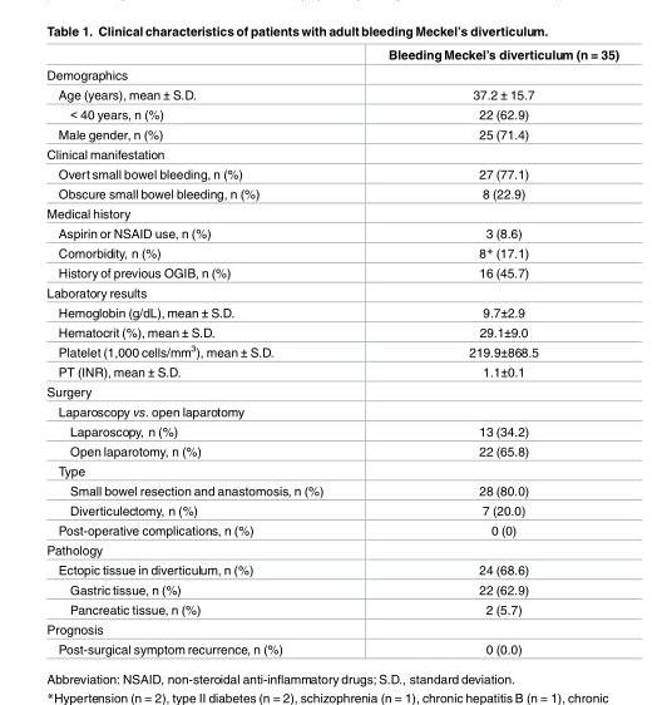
<table><thead><tr><td></td><td>Bleeding Meckel’s diverticulum (n = 35)</td></tr></thead><tbody><tr><td colspan="2">Demographics</td></tr><tr><td>Age (years), mean ± S.D.</td><td>37.2 ± 15.7</td></tr><tr><td>&lt; 40 years, n (%)</td><td>22 (62.9)</td></tr><tr><td>Male gender, n (%)</td><td>25 (71.4)</td></tr><tr><td colspan="2">Clinical manifestation</td></tr><tr><td>Overt small bowel bleeding, n (%)</td><td>27 (77.1)</td></tr><tr><td>Obscure small bowel bleeding, n (%)</td><td>8 (22.9)</td></tr><tr><td colspan="2">Medical history</td></tr><tr><td>Aspirin or NSAID use, n (%)</td><td>3 (8.6)</td></tr><tr><td>Comorbidity, n (%)</td><td>8* (17.1)</td></tr><tr><td>History of previous OGIB, n (%)</td><td>16 (45.7)</td></tr><tr><td colspan="2">Laboratory results</td></tr><tr><td>Hemoglobin (g/dL), mean ± S.D.</td><td>9.7±2.9</td></tr><tr><td>Hematocrit (%), mean ± S.D.</td><td>29.1±9.0</td></tr><tr><td>Platelet (1,000 cells/mm<sup>3</sup>), mean ± S.D.</td><td>219.9±868.5</td></tr><tr><td>PT (INR), mean ± S.D.</td><td>1.1±0.1</td></tr><tr><td colspan="2">Surgery</td></tr><tr><td colspan="2">Laparoscopy vs. open laparotomy</td></tr><tr><td>Laparoscopy, n (%)</td><td>13 (34.2)</td></tr><tr><td>Open laparotomy, n (%)</td><td>22 (65.8)</td></tr><tr><td colspan="2">Type</td></tr><tr><td>Small bowel resection and anastomosis, n (%)</td><td>28 (80.0)</td></tr><tr><td>Diverticulectomy, n (%)</td><td>7 (20.0)</td></tr><tr><td>Post-operative complications, n (%)</td><td>0 (0)</td></tr><tr><td colspan="2">Pathology</td></tr><tr><td>Ectopic tissue in diverticulum, n (%)</td><td>24 (68.6)</td></tr><tr><td>Gastric tissue, n (%)</td><td>22 (62.9)</td></tr><tr><td>Pancreatic tissue, n (%)</td><td>2 (5.7)</td></tr><tr><td colspan="2">Prognosis</td></tr><tr><td>Post-surgical symptom recurrence, n (%)</td><td>0 (0.0)</td></tr></tbody></table>